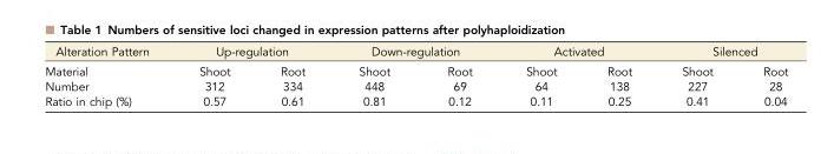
<table><thead><tr><td rowspan="2">Alteration Pattern Material</td><td colspan="2">Up-regulation</td><td colspan="2">Down-regulation</td><td colspan="2">Activated</td><td colspan="2">Silenced</td></tr><tr><td>Shoot</td><td>Root</td><td>Shoot</td><td>Root</td><td>Shoot</td><td>Root</td><td>Shoot</td><td>Root</td></tr></thead><tbody><tr><td>Number</td><td>312</td><td>334</td><td>448</td><td>69</td><td>64</td><td>138</td><td>227</td><td>28</td></tr><tr><td>Ratio in chip (%)</td><td>0.57</td><td>0.61</td><td>0.81</td><td>0.12</td><td>0.11</td><td>0.25</td><td>0.41</td><td>0.04</td></tr></tbody></table>